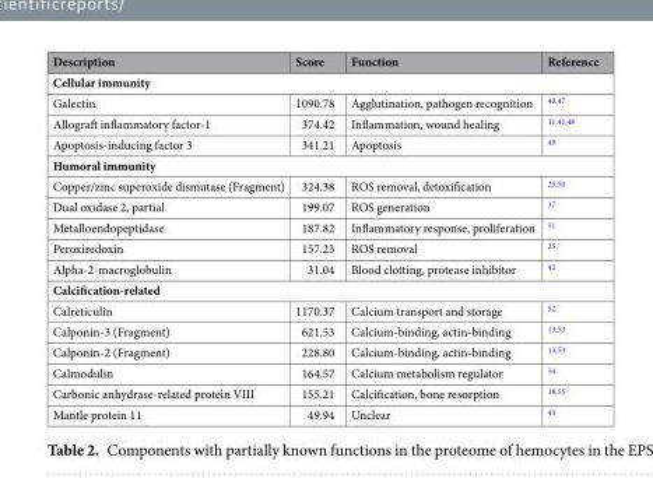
<table><thead><tr><td>Description</td><td>Score</td><td>Function</td><td>Reference</td></tr></thead><tbody><tr><td colspan="4">Cellular immunity</td></tr><tr><td>Galectin</td><td>1090.78</td><td>Agglutination, pathogen recognition</td><td><sup>40,47</sup></td></tr><tr><td>Allograft inflammatory factor-1</td><td>374.42</td><td>Inflammation, wound healing</td><td><sup>31,41,48</sup></td></tr><tr><td>Apoptosis-inducing factor 3</td><td>341.21</td><td>Apoptosis</td><td><sup>49</sup></td></tr><tr><td colspan="4">Humoral immunity</td></tr><tr><td>Copper/zinc superoxide dismutase (Fragment)</td><td>324.38</td><td>ROS removal, detoxification</td><td><sup>25,50</sup></td></tr><tr><td>Dual oxidase 2, partial</td><td>199.07</td><td>ROS generation</td><td><sup>37</sup></td></tr><tr><td>Metalloendopeptidase</td><td>187.82</td><td>Inflammatory response, proliferation</td><td><sup>51</sup></td></tr><tr><td>Peroxiredoxin</td><td>157.23</td><td>ROS removal</td><td><sup>25</sup></td></tr><tr><td>Alpha-2-macroglobulin</td><td>31.04</td><td>Blood clotting, protease inhibitor</td><td><sup>42</sup></td></tr><tr><td colspan="4">Calcification-related</td></tr><tr><td>Calreticulin</td><td>1170.37</td><td>Calcium transport and storage</td><td><sup>52</sup></td></tr><tr><td>Calponin-3 (Fragment)</td><td>621.53</td><td>Calcium-binding, actin-binding</td><td><sup>13,53</sup></td></tr><tr><td>Calponin-2 (Fragment)</td><td>228.80</td><td>Calcium-binding, actin-binding</td><td><sup>13,53</sup></td></tr><tr><td>Calmodulin</td><td>164.57</td><td>Calcium metabolism regulator</td><td><sup>54</sup></td></tr><tr><td>Carbonic anhydrase-related protein VIII</td><td>155.21</td><td>Calcification, bone resorption</td><td><sup>18,55</sup></td></tr><tr><td>Mantle protein 11</td><td>49.94</td><td>Unclear</td><td><sup>43</sup></td></tr></tbody></table>